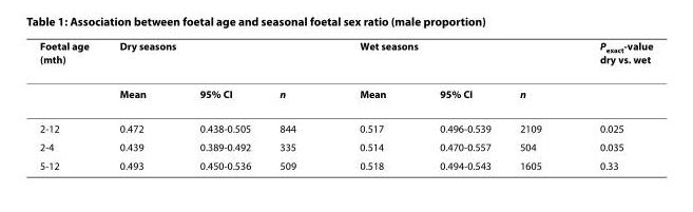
<table><thead><tr><td rowspan="2">Foetal age (mth)</td><td colspan="3">Dry seasons</td><td colspan="3">Wet seasons</td><td rowspan="2">P<sub>exact</sub>-value dry vs. wet</td></tr><tr><td>Mean</td><td>95% CI</td><td>n</td><td>Mean</td><td>95% CI</td><td>n</td></tr></thead><tbody><tr><td>2-12</td><td>0.472</td><td>0.438-0.505</td><td>844</td><td>0.517</td><td>0.496-0.539</td><td>2109</td><td>0.025</td></tr><tr><td>2-4</td><td>0.439</td><td>0.389-0.492</td><td>335</td><td>0.514</td><td>0.470-0.557</td><td>504</td><td>0.035</td></tr><tr><td>5-12</td><td>0.493</td><td>0.450-0.536</td><td>509</td><td>0.518</td><td>0.494-0.543</td><td>1605</td><td>0.33</td></tr></tbody></table>